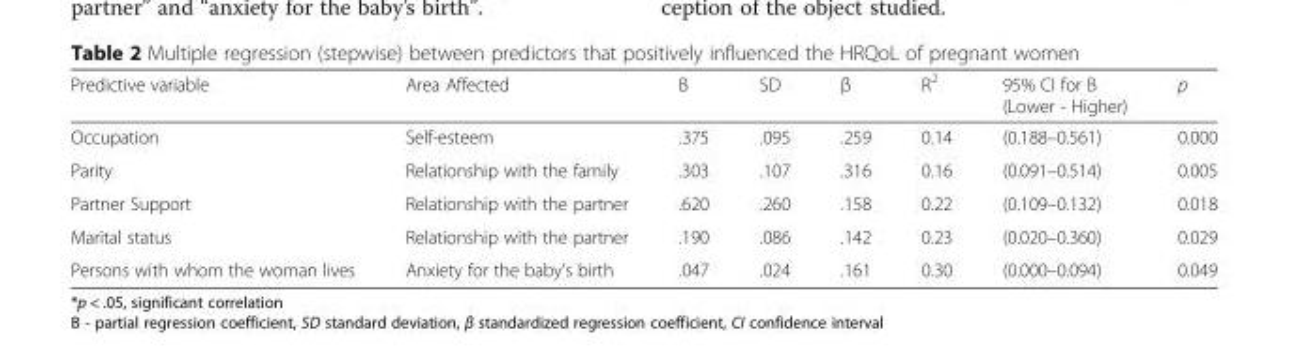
<table><thead><tr><td>Predictive variable</td><td>Area Affected</td><td>B</td><td>SD</td><td>β</td><td>R<sup>2</sup></td><td>95% CI for B (Lower - Higher)</td><td>p</td></tr></thead><tbody><tr><td>Occupation</td><td>Self-esteem</td><td>.375</td><td>.095</td><td>.259</td><td>0.14</td><td>(0.188–0.561)</td><td>0.000</td></tr><tr><td>Parity</td><td>Relationship with the family</td><td>.303</td><td>.107</td><td>.316</td><td>0.16</td><td>(0.091–0.514)</td><td>0.005</td></tr><tr><td>Partner Support</td><td>Relationship with the partner</td><td>.620</td><td>.260</td><td>.158</td><td>0.22</td><td>(0.109–0.132)</td><td>0.018</td></tr><tr><td>Marital status</td><td>Relationship with the partner</td><td>.190</td><td>.086</td><td>.142</td><td>0.23</td><td>(0.020–0.360)</td><td>0.029</td></tr><tr><td>Persons with whom the woman lives</td><td>Anxiety for the baby’s birth</td><td>.047</td><td>.024</td><td>.161</td><td>0.30</td><td>(0.000–0.094)</td><td>0.049</td></tr></tbody></table>